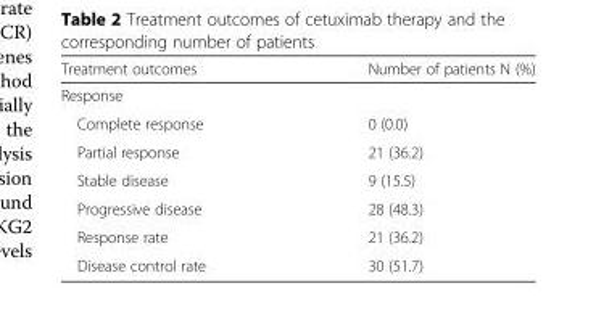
<table><thead><tr><td>Treatment outcomes</td><td>Number of patients N (%)</td></tr></thead><tbody><tr><td colspan="2">Response</td></tr><tr><td>Complete response</td><td>0 (0.0)</td></tr><tr><td>Partial response</td><td>21 (36.2)</td></tr><tr><td>Stable disease</td><td>9 (15.5)</td></tr><tr><td>Progressive disease</td><td>28 (48.3)</td></tr><tr><td>Response rate</td><td>21 (36.2)</td></tr><tr><td>Disease control rate</td><td>30 (51.7)</td></tr></tbody></table>